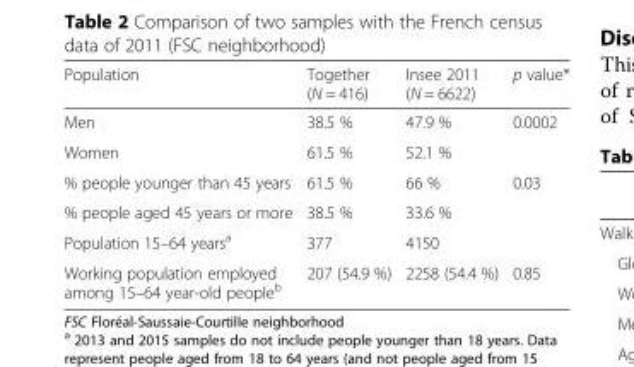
<table><thead><tr><td>Population</td><td>Together (N = 416)</td><td>Insee 2011 (N = 6622)</td><td>p value*</td></tr></thead><tbody><tr><td>Men</td><td>38.5 %</td><td>47.9 %</td><td rowspan="2">0.0002</td></tr><tr><td>Women</td><td>61.5 %</td><td>52.1 %</td></tr><tr><td>% people younger than 45 years</td><td>61.5 %</td><td>66 %</td><td rowspan="2">0.03</td></tr><tr><td>% people aged 45 years or more</td><td>38.5 %</td><td>33.6 %</td></tr><tr><td>Population 15–64 years<sup>a</sup></td><td>377</td><td>4150</td><td></td></tr><tr><td>Working population employed among 15–64 year-old people<sup>b</sup></td><td>207 (54.9 %)</td><td>2258 (54.4 %)</td><td>0.85</td></tr></tbody></table>